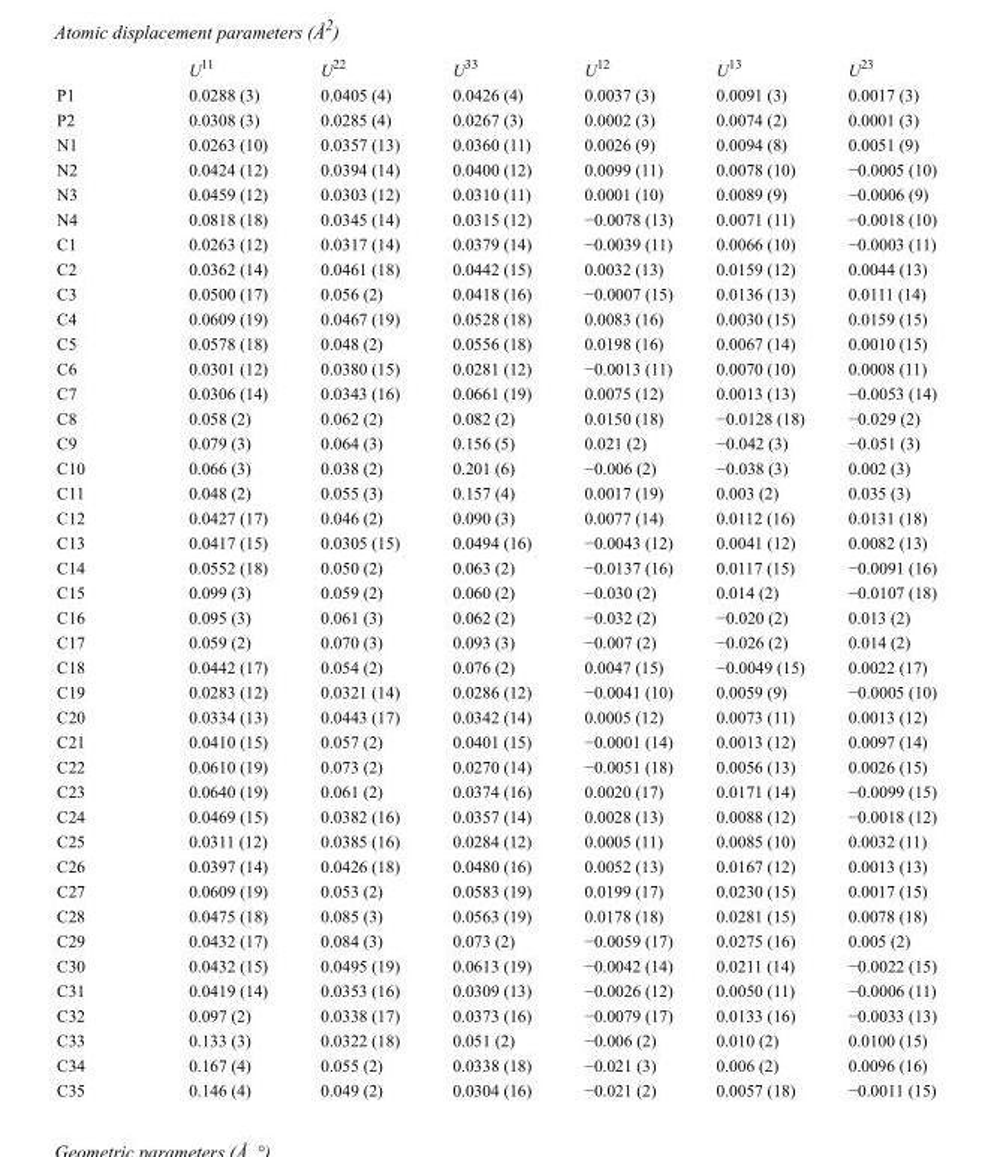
<table><thead><tr><td></td><td>U<sup>11</sup></td><td>U<sup>22</sup></td><td>U<sup>33</sup></td><td>U<sup>12</sup></td><td>U<sup>13</sup></td><td>U<sup>23</sup></td></tr></thead><tbody><tr><td>P1</td><td>0.0288 (3)</td><td>0.0405 (4)</td><td>0.0426 (4)</td><td>0.0037 (3)</td><td>0.0091 (3)</td><td>0.0017 (3)</td></tr><tr><td>P2</td><td>0.0308 (3)</td><td>0.0285 (4)</td><td>0.0267 (3)</td><td>0.0002 (3)</td><td>0.0074 (2)</td><td>0.0001 (3)</td></tr><tr><td>N1</td><td>0.0263 (10)</td><td>0.0357 (13)</td><td>0.0360 (11)</td><td>0.0026 (9)</td><td>0.0094 (8)</td><td>0.0051 (9)</td></tr><tr><td>N2</td><td>0.0424 (12)</td><td>0.0394 (14)</td><td>0.0400 (12)</td><td>0.0099 (11)</td><td>0.0078 (10)</td><td>−0.0005 (10)</td></tr><tr><td>N3</td><td>0.0459 (12)</td><td>0.0303 (12)</td><td>0.0310 (11)</td><td>0.0001 (10)</td><td>0.0089 (9)</td><td>−0.0006 (9)</td></tr><tr><td>N4</td><td>0.0818 (18)</td><td>0.0345 (14)</td><td>0.0315 (12)</td><td>−0.0078 (13)</td><td>0.0071 (11)</td><td>−0.0018 (10)</td></tr><tr><td>C1</td><td>0.0263 (12)</td><td>0.0317 (14)</td><td>0.0379 (14)</td><td>−0.0039 (11)</td><td>0.0066 (10)</td><td>−0.0003 (11)</td></tr><tr><td>C2</td><td>0.0362 (14)</td><td>0.0461 (18)</td><td>0.0442 (15)</td><td>0.0032 (13)</td><td>0.0159 (12)</td><td>0.0044 (13)</td></tr><tr><td>C3</td><td>0.0500 (17)</td><td>0.056 (2)</td><td>0.0418 (16)</td><td>−0.0007 (15)</td><td>0.0136 (13)</td><td>0.0111 (14)</td></tr><tr><td>C4</td><td>0.0609 (19)</td><td>0.0467 (19)</td><td>0.0528 (18)</td><td>0.0083 (16)</td><td>0.0030 (15)</td><td>0.0159 (15)</td></tr><tr><td>C5</td><td>0.0578 (18)</td><td>0.048 (2)</td><td>0.0556 (18)</td><td>0.0198 (16)</td><td>0.0067 (14)</td><td>0.0010 (15)</td></tr><tr><td>C6</td><td>0.0301 (12)</td><td>0.0380 (15)</td><td>0.0281 (12)</td><td>−0.0013 (11)</td><td>0.0070 (10)</td><td>0.0008 (11)</td></tr><tr><td>C7</td><td>0.0306 (14)</td><td>0.0343 (16)</td><td>0.0661 (19)</td><td>0.0075 (12)</td><td>0.0013 (13)</td><td>−0.0053 (14)</td></tr><tr><td>C8</td><td>0.058 (2)</td><td>0.062 (2)</td><td>0.082 (2)</td><td>0.0150 (18)</td><td>−0.0128 (18)</td><td>−0.029 (2)</td></tr><tr><td>C9</td><td>0.079 (3)</td><td>0.064 (3)</td><td>0.156 (5)</td><td>0.021 (2)</td><td>−0.042 (3)</td><td>−0.051 (3)</td></tr><tr><td>C10</td><td>0.066 (3)</td><td>0.038 (2)</td><td>0.201 (6)</td><td>−0.006 (2)</td><td>−0.038 (3)</td><td>0.002 (3)</td></tr><tr><td>C11</td><td>0.048 (2)</td><td>0.055 (3)</td><td>0.157 (4)</td><td>0.0017 (19)</td><td>0.003 (2)</td><td>0.035 (3)</td></tr><tr><td>C12</td><td>0.0427 (17)</td><td>0.046 (2)</td><td>0.090 (3)</td><td>0.0077 (14)</td><td>0.0112 (16)</td><td>0.0131 (18)</td></tr><tr><td>C13</td><td>0.0417 (15)</td><td>0.0305 (15)</td><td>0.0494 (16)</td><td>−0.0043 (12)</td><td>0.0041 (12)</td><td>0.0082 (13)</td></tr><tr><td>C14</td><td>0.0552 (18)</td><td>0.050 (2)</td><td>0.063 (2)</td><td>−0.0137 (16)</td><td>0.0117 (15)</td><td>−0.0091 (16)</td></tr><tr><td>C15</td><td>0.099 (3)</td><td>0.059 (2)</td><td>0.060 (2)</td><td>−0.030 (2)</td><td>0.014 (2)</td><td>−0.0107 (18)</td></tr><tr><td>C16</td><td>0.095 (3)</td><td>0.061 (3)</td><td>0.062 (2)</td><td>−0.032 (2)</td><td>−0.020 (2)</td><td>0.013 (2)</td></tr><tr><td>C17</td><td>0.059 (2)</td><td>0.070 (3)</td><td>0.093 (3)</td><td>−0.007 (2)</td><td>−0.026 (2)</td><td>0.014 (2)</td></tr><tr><td>C18</td><td>0.0442 (17)</td><td>0.054 (2)</td><td>0.076 (2)</td><td>0.0047 (15)</td><td>−0.0049 (15)</td><td>0.0022 (17)</td></tr><tr><td>C19</td><td>0.0283 (12)</td><td>0.0321 (14)</td><td>0.0286 (12)</td><td>−0.0041 (10)</td><td>0.0059 (9)</td><td>−0.0005 (10)</td></tr><tr><td>C20</td><td>0.0334 (13)</td><td>0.0443 (17)</td><td>0.0342 (14)</td><td>0.0005 (12)</td><td>0.0073 (11)</td><td>0.0013 (12)</td></tr><tr><td>C21</td><td>0.0410 (15)</td><td>0.057 (2)</td><td>0.0401 (15)</td><td>−0.0001 (14)</td><td>0.0013 (12)</td><td>0.0097 (14)</td></tr><tr><td>C22</td><td>0.0610 (19)</td><td>0.073 (2)</td><td>0.0270 (14)</td><td>−0.0051 (18)</td><td>0.0056 (13)</td><td>0.0026 (15)</td></tr><tr><td>C23</td><td>0.0640 (19)</td><td>0.061 (2)</td><td>0.0374 (16)</td><td>0.0020 (17)</td><td>0.0171 (14)</td><td>−0.0099 (15)</td></tr><tr><td>C24</td><td>0.0469 (15)</td><td>0.0382 (16)</td><td>0.0357 (14)</td><td>0.0028 (13)</td><td>0.0088 (12)</td><td>−0.0018 (12)</td></tr><tr><td>C25</td><td>0.0311 (12)</td><td>0.0385 (16)</td><td>0.0284 (12)</td><td>0.0005 (11)</td><td>0.0085 (10)</td><td>0.0032 (11)</td></tr><tr><td>C26</td><td>0.0397 (14)</td><td>0.0426 (18)</td><td>0.0480 (16)</td><td>0.0052 (13)</td><td>0.0167 (12)</td><td>0.0013 (13)</td></tr><tr><td>C27</td><td>0.0609 (19)</td><td>0.053 (2)</td><td>0.0583 (19)</td><td>0.0199 (17)</td><td>0.0230 (15)</td><td>0.0017 (15)</td></tr><tr><td>C28</td><td>0.0475 (18)</td><td>0.085 (3)</td><td>0.0563 (19)</td><td>0.0178 (18)</td><td>0.0281 (15)</td><td>0.0078 (18)</td></tr><tr><td>C29</td><td>0.0432 (17)</td><td>0.084 (3)</td><td>0.073 (2)</td><td>−0.0059 (17)</td><td>0.0275 (16)</td><td>0.005 (2)</td></tr><tr><td>C30</td><td>0.0432 (15)</td><td>0.0495 (19)</td><td>0.0613 (19)</td><td>−0.0042 (14)</td><td>0.0211 (14)</td><td>−0.0022 (15)</td></tr><tr><td>C31</td><td>0.0419 (14)</td><td>0.0353 (16)</td><td>0.0309 (13)</td><td>−0.0026 (12)</td><td>0.0050 (11)</td><td>−0.0006 (11)</td></tr><tr><td>C32</td><td>0.097 (2)</td><td>0.0338 (17)</td><td>0.0373 (16)</td><td>−0.0079 (17)</td><td>0.0133 (16)</td><td>−0.0033 (13)</td></tr><tr><td>C33</td><td>0.133 (3)</td><td>0.0322 (18)</td><td>0.051 (2)</td><td>−0.006 (2)</td><td>0.010 (2)</td><td>0.0100 (15)</td></tr><tr><td>C34</td><td>0.167 (4)</td><td>0.055 (2)</td><td>0.0338 (18)</td><td>−0.021 (3)</td><td>0.006 (2)</td><td>0.0096 (16)</td></tr><tr><td>C35</td><td>0.146 (4)</td><td>0.049 (2)</td><td>0.0304 (16)</td><td>−0.021 (2)</td><td>0.0057 (18)</td><td>−0.0011 (15)</td></tr></tbody></table>